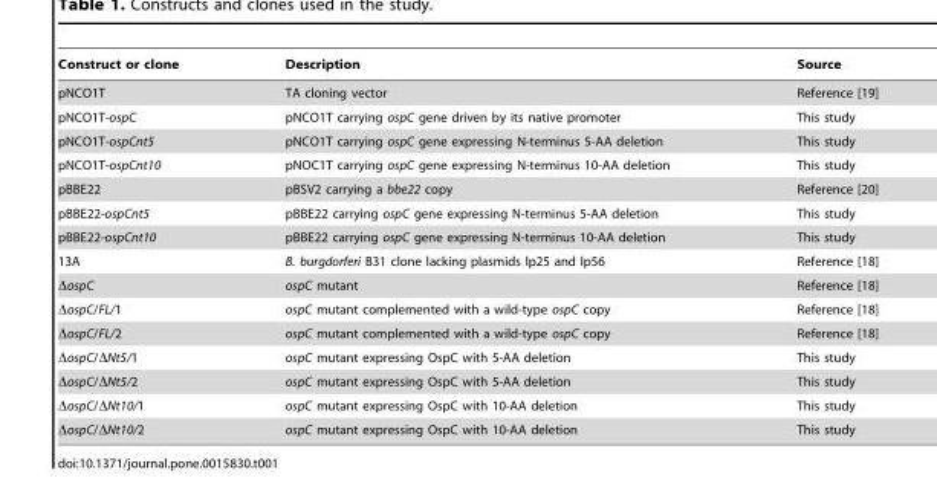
<table><thead><tr><td>Construct or clone</td><td>Description</td><td>Source</td></tr></thead><tbody><tr><td>pNCO1T</td><td>TA cloning vector</td><td>Reference [19]</td></tr><tr><td>pNCO1T-ospC</td><td>pNCO1T carrying ospC gene driven by its native promoter</td><td>This study</td></tr><tr><td>pNCO1T-ospCnt5</td><td>pNCO1T carrying ospC gene expressing N-terminus 5-AA deletion</td><td>This study</td></tr><tr><td>pNCO1T-ospCnt10</td><td>pNOC1T carrying ospC gene expressing N-terminus 10-AA deletion</td><td>This study</td></tr><tr><td>pBBE22</td><td>pBSV2 carrying a bbe22 copy</td><td>Reference [20]</td></tr><tr><td>pBBE22-ospCnt5</td><td>pBBE22 carrying ospC gene expressing N-terminus 5-AA deletion</td><td>This study</td></tr><tr><td>pBBE22-ospCnt10</td><td>pBBE22 carrying ospC gene expressing N-terminus 10-AA deletion</td><td>This study</td></tr><tr><td>13A</td><td>B. burgdorferi B31 clone lacking plasmids lp25 and lp56</td><td>Reference [18]</td></tr><tr><td>ΔospC</td><td>ospC mutant</td><td>Reference [18]</td></tr><tr><td>ΔospC/FL/1</td><td>ospC mutant complemented with a wild-type ospC copy</td><td>Reference [18]</td></tr><tr><td>ΔospC/FL/2</td><td>ospC mutant complemented with a wild-type ospC copy</td><td>Reference [18]</td></tr><tr><td>ΔospC/ΔNt5/1</td><td>ospC mutant expressing OspC with 5-AA deletion</td><td>This study</td></tr><tr><td>ΔospC/ΔNt5/2</td><td>ospC mutant expressing OspC with 5-AA deletion</td><td>This study</td></tr><tr><td>ΔospC/ΔNt10/1</td><td>ospC mutant expressing OspC with 10-AA deletion</td><td>This study</td></tr><tr><td>ΔospC/ΔNt10/2</td><td>ospC mutant expressing OspC with 10-AA deletion</td><td>This study</td></tr></tbody></table>